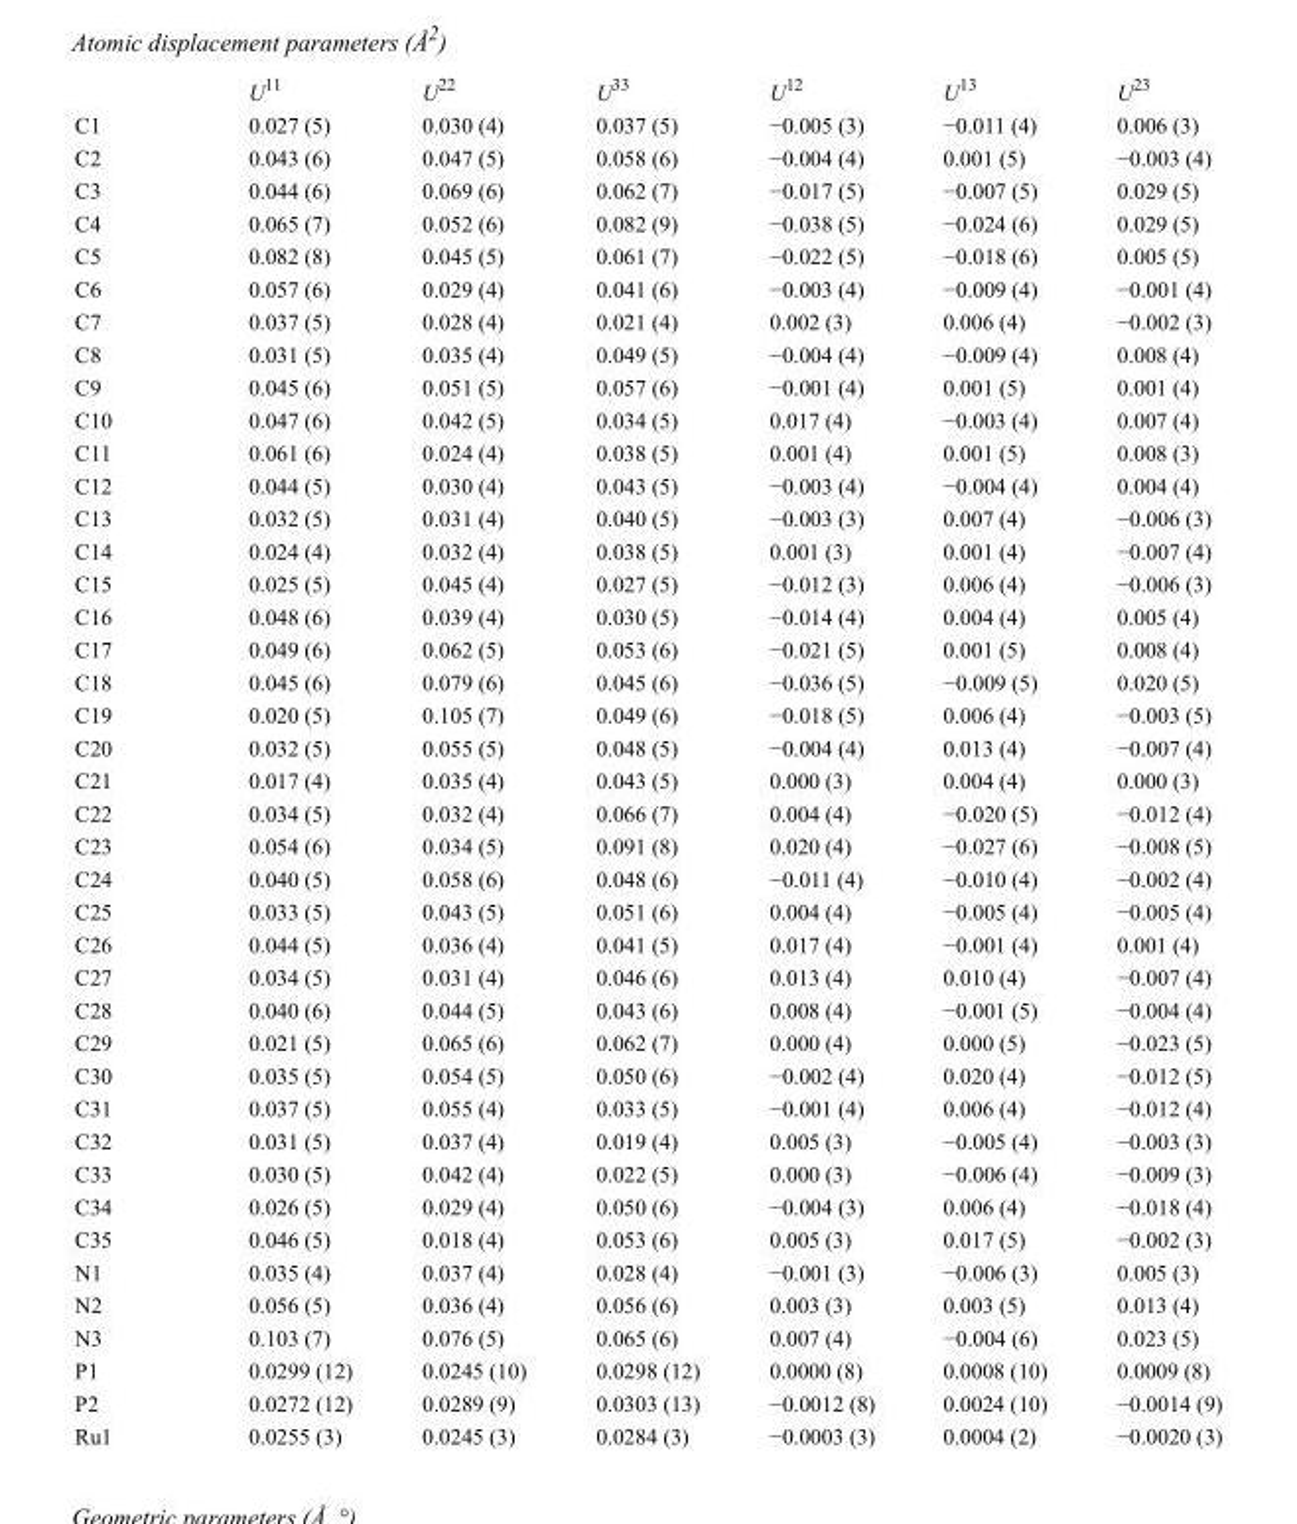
<table><thead><tr><td></td><td>U<sup>11</sup></td><td>U<sup>22</sup></td><td>U<sup>33</sup></td><td>U<sup>12</sup></td><td>U<sup>13</sup></td><td>U<sup>23</sup></td></tr></thead><tbody><tr><td>C1</td><td>0.027 (5)</td><td>0.030 (4)</td><td>0.037 (5)</td><td>−0.005 (3)</td><td>−0.011 (4)</td><td>0.006 (3)</td></tr><tr><td>C2</td><td>0.043 (6)</td><td>0.047 (5)</td><td>0.058 (6)</td><td>−0.004 (4)</td><td>0.001 (5)</td><td>−0.003 (4)</td></tr><tr><td>C3</td><td>0.044 (6)</td><td>0.069 (6)</td><td>0.062 (7)</td><td>−0.017 (5)</td><td>−0.007 (5)</td><td>0.029 (5)</td></tr><tr><td>C4</td><td>0.065 (7)</td><td>0.052 (6)</td><td>0.082 (9)</td><td>−0.038 (5)</td><td>−0.024 (6)</td><td>0.029 (5)</td></tr><tr><td>C5</td><td>0.082 (8)</td><td>0.045 (5)</td><td>0.061 (7)</td><td>−0.022 (5)</td><td>−0.018 (6)</td><td>0.005 (5)</td></tr><tr><td>C6</td><td>0.057 (6)</td><td>0.029 (4)</td><td>0.041 (6)</td><td>−0.003 (4)</td><td>−0.009 (4)</td><td>−0.001 (4)</td></tr><tr><td>C7</td><td>0.037 (5)</td><td>0.028 (4)</td><td>0.021 (4)</td><td>0.002 (3)</td><td>0.006 (4)</td><td>−0.002 (3)</td></tr><tr><td>C8</td><td>0.031 (5)</td><td>0.035 (4)</td><td>0.049 (5)</td><td>−0.004 (4)</td><td>−0.009 (4)</td><td>0.008 (4)</td></tr><tr><td>C9</td><td>0.045 (6)</td><td>0.051 (5)</td><td>0.057 (6)</td><td>−0.001 (4)</td><td>0.001 (5)</td><td>0.001 (4)</td></tr><tr><td>C10</td><td>0.047 (6)</td><td>0.042 (5)</td><td>0.034 (5)</td><td>0.017 (4)</td><td>−0.003 (4)</td><td>0.007 (4)</td></tr><tr><td>C11</td><td>0.061 (6)</td><td>0.024 (4)</td><td>0.038 (5)</td><td>0.001 (4)</td><td>0.001 (5)</td><td>0.008 (3)</td></tr><tr><td>C12</td><td>0.044 (5)</td><td>0.030 (4)</td><td>0.043 (5)</td><td>−0.003 (4)</td><td>−0.004 (4)</td><td>0.004 (4)</td></tr><tr><td>C13</td><td>0.032 (5)</td><td>0.031 (4)</td><td>0.040 (5)</td><td>−0.003 (3)</td><td>0.007 (4)</td><td>−0.006 (3)</td></tr><tr><td>C14</td><td>0.024 (4)</td><td>0.032 (4)</td><td>0.038 (5)</td><td>0.001 (3)</td><td>0.001 (4)</td><td>−0.007 (4)</td></tr><tr><td>C15</td><td>0.025 (5)</td><td>0.045 (4)</td><td>0.027 (5)</td><td>−0.012 (3)</td><td>0.006 (4)</td><td>−0.006 (3)</td></tr><tr><td>C16</td><td>0.048 (6)</td><td>0.039 (4)</td><td>0.030 (5)</td><td>−0.014 (4)</td><td>0.004 (4)</td><td>0.005 (4)</td></tr><tr><td>C17</td><td>0.049 (6)</td><td>0.062 (5)</td><td>0.053 (6)</td><td>−0.021 (5)</td><td>0.001 (5)</td><td>0.008 (4)</td></tr><tr><td>C18</td><td>0.045 (6)</td><td>0.079 (6)</td><td>0.045 (6)</td><td>−0.036 (5)</td><td>−0.009 (5)</td><td>0.020 (5)</td></tr><tr><td>C19</td><td>0.020 (5)</td><td>0.105 (7)</td><td>0.049 (6)</td><td>−0.018 (5)</td><td>0.006 (4)</td><td>−0.003 (5)</td></tr><tr><td>C20</td><td>0.032 (5)</td><td>0.055 (5)</td><td>0.048 (5)</td><td>−0.004 (4)</td><td>0.013 (4)</td><td>−0.007 (4)</td></tr><tr><td>C21</td><td>0.017 (4)</td><td>0.035 (4)</td><td>0.043 (5)</td><td>0.000 (3)</td><td>0.004 (4)</td><td>0.000 (3)</td></tr><tr><td>C22</td><td>0.034 (5)</td><td>0.032 (4)</td><td>0.066 (7)</td><td>0.004 (4)</td><td>−0.020 (5)</td><td>−0.012 (4)</td></tr><tr><td>C23</td><td>0.054 (6)</td><td>0.034 (5)</td><td>0.091 (8)</td><td>0.020 (4)</td><td>−0.027 (6)</td><td>−0.008 (5)</td></tr><tr><td>C24</td><td>0.040 (5)</td><td>0.058 (6)</td><td>0.048 (6)</td><td>−0.011 (4)</td><td>−0.010 (4)</td><td>−0.002 (4)</td></tr><tr><td>C25</td><td>0.033 (5)</td><td>0.043 (5)</td><td>0.051 (6)</td><td>0.004 (4)</td><td>−0.005 (4)</td><td>−0.005 (4)</td></tr><tr><td>C26</td><td>0.044 (5)</td><td>0.036 (4)</td><td>0.041 (5)</td><td>0.017 (4)</td><td>−0.001 (4)</td><td>0.001 (4)</td></tr><tr><td>C27</td><td>0.034 (5)</td><td>0.031 (4)</td><td>0.046 (6)</td><td>0.013 (4)</td><td>0.010 (4)</td><td>−0.007 (4)</td></tr><tr><td>C28</td><td>0.040 (6)</td><td>0.044 (5)</td><td>0.043 (6)</td><td>0.008 (4)</td><td>−0.001 (5)</td><td>−0.004 (4)</td></tr><tr><td>C29</td><td>0.021 (5)</td><td>0.065 (6)</td><td>0.062 (7)</td><td>0.000 (4)</td><td>0.000 (5)</td><td>−0.023 (5)</td></tr><tr><td>C30</td><td>0.035 (5)</td><td>0.054 (5)</td><td>0.050 (6)</td><td>−0.002 (4)</td><td>0.020 (4)</td><td>−0.012 (5)</td></tr><tr><td>C31</td><td>0.037 (5)</td><td>0.055 (4)</td><td>0.033 (5)</td><td>−0.001 (4)</td><td>0.006 (4)</td><td>−0.012 (4)</td></tr><tr><td>C32</td><td>0.031 (5)</td><td>0.037 (4)</td><td>0.019 (4)</td><td>0.005 (3)</td><td>−0.005 (4)</td><td>−0.003 (3)</td></tr><tr><td>C33</td><td>0.030 (5)</td><td>0.042 (4)</td><td>0.022 (5)</td><td>0.000 (3)</td><td>−0.006 (4)</td><td>−0.009 (3)</td></tr><tr><td>C34</td><td>0.026 (5)</td><td>0.029 (4)</td><td>0.050 (6)</td><td>−0.004 (3)</td><td>0.006 (4)</td><td>−0.018 (4)</td></tr><tr><td>C35</td><td>0.046 (5)</td><td>0.018 (4)</td><td>0.053 (6)</td><td>0.005 (3)</td><td>0.017 (5)</td><td>−0.002 (3)</td></tr><tr><td>N1</td><td>0.035 (4)</td><td>0.037 (4)</td><td>0.028 (4)</td><td>−0.001 (3)</td><td>−0.006 (3)</td><td>0.005 (3)</td></tr><tr><td>N2</td><td>0.056 (5)</td><td>0.036 (4)</td><td>0.056 (6)</td><td>0.003 (3)</td><td>0.003 (5)</td><td>0.013 (4)</td></tr><tr><td>N3</td><td>0.103 (7)</td><td>0.076 (5)</td><td>0.065 (6)</td><td>0.007 (4)</td><td>−0.004 (6)</td><td>0.023 (5)</td></tr><tr><td>P1</td><td>0.0299 (12)</td><td>0.0245 (10)</td><td>0.0298 (12)</td><td>0.0000 (8)</td><td>0.0008 (10)</td><td>0.0009 (8)</td></tr><tr><td>P2</td><td>0.0272 (12)</td><td>0.0289 (9)</td><td>0.0303 (13)</td><td>−0.0012 (8)</td><td>0.0024 (10)</td><td>−0.0014 (9)</td></tr><tr><td>Ru1</td><td>0.0255 (3)</td><td>0.0245 (3)</td><td>0.0284 (3)</td><td>−0.0003 (3)</td><td>0.0004 (2)</td><td>−0.0020 (3)</td></tr></tbody></table>